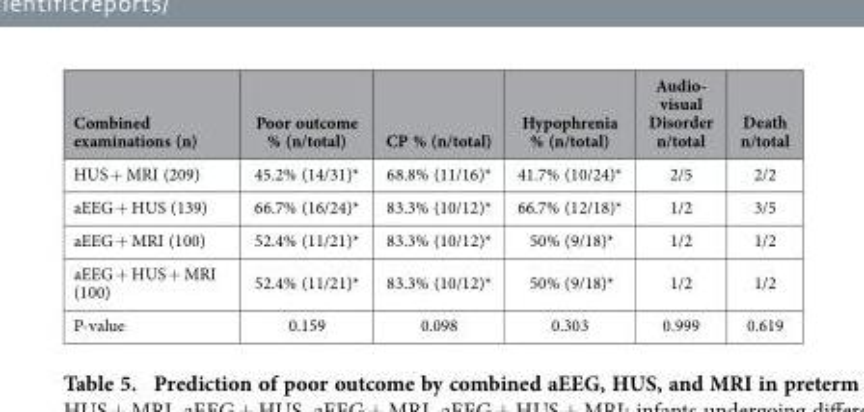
<table><thead><tr><td>Combined examinations (n)</td><td>Poor outcome % (n/total)</td><td>CP % (n/total)</td><td>Hypophrenia % (n/total)</td><td>Audio- visual Disorder n/total</td><td>Death n/total</td></tr></thead><tbody><tr><td>HUS + MRI (209)</td><td>45.2% (14/31)*</td><td>68.8% (11/16)*</td><td>41.7% (10/24)*</td><td>2/5</td><td>2/2</td></tr><tr><td>aEEG + HUS (139)</td><td>66.7% (16/24)*</td><td>83.3% (10/12)*</td><td>66.7% (12/18)*</td><td>1/2</td><td>3/5</td></tr><tr><td>aEEG + MRI (100)</td><td>52.4% (11/21)*</td><td>83.3% (10/12)*</td><td>50% (9/18)*</td><td>1/2</td><td>1/2</td></tr><tr><td>aEEG + HUS + MRI (100)</td><td>52.4% (11/21)*</td><td>83.3% (10/12)*</td><td>50% (9/18)*</td><td>1/2</td><td>1/2</td></tr><tr><td>P-value</td><td>0.159</td><td>0.098</td><td>0.303</td><td>0.999</td><td>0.619</td></tr></tbody></table>